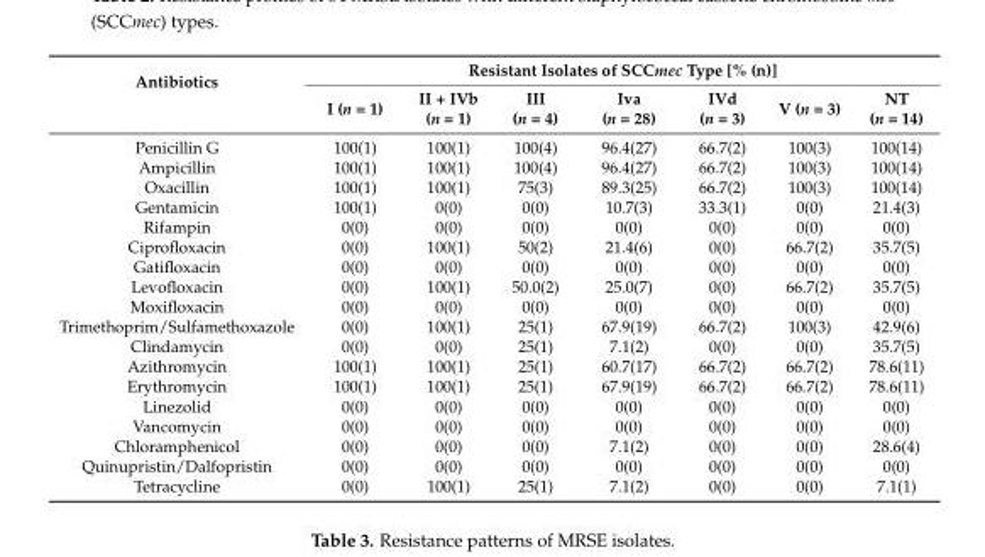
<table><thead><tr><td rowspan="2">Antibiotics</td><td colspan="7">Resistant Isolates of SCCmec Type [% (n)]</td></tr><tr><td>I (n = 1)</td><td>II + IVb (n = 1)</td><td>III (n = 4)</td><td>Iva (n = 28)</td><td>IVd (n = 3)</td><td>V (n = 3)</td><td>NT (n = 14)</td></tr></thead><tbody><tr><td>Penicillin G</td><td>100(1)</td><td>100(1)</td><td>100(4)</td><td>96.4(27)</td><td>66.7(2)</td><td>100(3)</td><td>100(14)</td></tr><tr><td>Ampicillin</td><td>100(1)</td><td>100(1)</td><td>100(4)</td><td>96.4(27)</td><td>66.7(2)</td><td>100(3)</td><td>100(14)</td></tr><tr><td>Oxacillin</td><td>100(1)</td><td>100(1)</td><td>75(3)</td><td>89.3(25)</td><td>66.7(2)</td><td>100(3)</td><td>100(14)</td></tr><tr><td>Gentamicin</td><td>100(1)</td><td>0(0)</td><td>0(0)</td><td>10.7(3)</td><td>33.3(1)</td><td>0(0)</td><td>21.4(3)</td></tr><tr><td>Rifampin</td><td>0(0)</td><td>0(0)</td><td>0(0)</td><td>0(0)</td><td>0(0)</td><td>0(0)</td><td>0(0)</td></tr><tr><td>Ciprofloxacin</td><td>0(0)</td><td>100(1)</td><td>50(2)</td><td>21.4(6)</td><td>0(0)</td><td>66.7(2)</td><td>35.7(5)</td></tr><tr><td>Gatifloxacin</td><td>0(0)</td><td>0(0)</td><td>0(0)</td><td>0(0)</td><td>0(0)</td><td>0(0)</td><td>0(0)</td></tr><tr><td>Levofloxacin</td><td>0(0)</td><td>100(1)</td><td>50.0(2)</td><td>25.0(7)</td><td>0(0)</td><td>66.7(2)</td><td>35.7(5)</td></tr><tr><td>Moxifloxacin</td><td>0(0)</td><td>0(0)</td><td>0(0)</td><td>0(0)</td><td>0(0)</td><td>0(0)</td><td>0(0)</td></tr><tr><td>Trimethoprim/Sulfamethoxazole</td><td>0(0)</td><td>100(1)</td><td>25(1)</td><td>67.9(19)</td><td>66.7(2)</td><td>100(3)</td><td>42.9(6)</td></tr><tr><td>Clindamycin</td><td>0(0)</td><td>0(0)</td><td>25(1)</td><td>7.1(2)</td><td>0(0)</td><td>0(0)</td><td>35.7(5)</td></tr><tr><td>Azithromycin</td><td>100(1)</td><td>100(1)</td><td>25(1)</td><td>60.7(17)</td><td>66.7(2)</td><td>66.7(2)</td><td>78.6(11)</td></tr><tr><td>Erythromycin</td><td>100(1)</td><td>100(1)</td><td>25(1)</td><td>67.9(19)</td><td>66.7(2)</td><td>66.7(2)</td><td>78.6(11)</td></tr><tr><td>Linezolid</td><td>0(0)</td><td>0(0)</td><td>0(0)</td><td>0(0)</td><td>0(0)</td><td>0(0)</td><td>0(0)</td></tr><tr><td>Vancomycin</td><td>0(0)</td><td>0(0)</td><td>0(0)</td><td>0(0)</td><td>0(0)</td><td>0(0)</td><td>0(0)</td></tr><tr><td>Chloramphenicol</td><td>0(0)</td><td>0(0)</td><td>0(0)</td><td>7.1(2)</td><td>0(0)</td><td>0(0)</td><td>28.6(4)</td></tr><tr><td>Quinupristin/Dalfopristin</td><td>0(0)</td><td>0(0)</td><td>0(0)</td><td>0(0)</td><td>0(0)</td><td>0(0)</td><td>0(0)</td></tr><tr><td>Tetracycline</td><td>0(0)</td><td>100(1)</td><td>25(1)</td><td>7.1(2)</td><td>0(0)</td><td>0(0)</td><td>7.1(1)</td></tr></tbody></table>